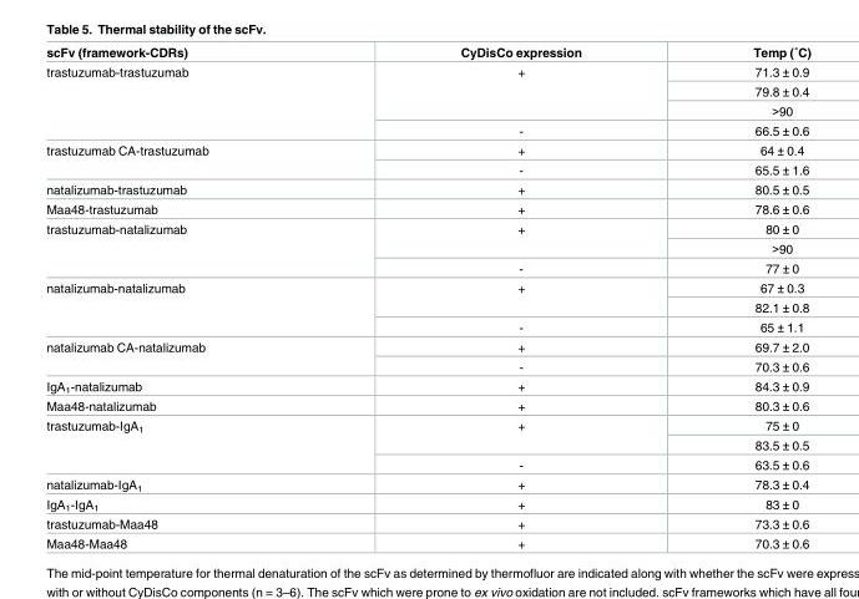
<table><thead><tr><td>scFv (framework-CDRs)</td><td>CyDisCo expression</td><td>Temp (˚C)</td></tr></thead><tbody><tr><td rowspan="4">trastuzumab-trastuzumab</td><td rowspan="3">+</td><td>71.3 ± 0.9</td></tr><tr><td>79.8 ± 0.4</td></tr><tr><td>&gt;90</td></tr><tr><td>-</td><td>66.5 ± 0.6</td></tr><tr><td rowspan="2">trastuzumab CA-trastuzumab</td><td>+</td><td>64 ± 0.4</td></tr><tr><td>-</td><td>65.5 ± 1.6</td></tr><tr><td>natalizumab-trastuzumab</td><td>+</td><td>80.5 ± 0.5</td></tr><tr><td>Maa48-trastuzumab</td><td>+</td><td>78.6 ± 0.6</td></tr><tr><td rowspan="3">trastuzumab-natalizumab</td><td rowspan="2">+</td><td>80 ± 0</td></tr><tr><td>&gt;90</td></tr><tr><td>-</td><td>77 ± 0</td></tr><tr><td rowspan="3">natalizumab-natalizumab</td><td rowspan="2">+</td><td>67 ± 0.3</td></tr><tr><td>82.1 ± 0.8</td></tr><tr><td>-</td><td>65 ± 1.1</td></tr><tr><td rowspan="2">natalizumab CA-natalizumab</td><td>+</td><td>69.7 ± 2.0</td></tr><tr><td>-</td><td>70.3 ± 0.6</td></tr><tr><td>IgA<sub>1</sub>-natalizumab</td><td>+</td><td>84.3 ± 0.9</td></tr><tr><td>Maa48-natalizumab</td><td>+</td><td>80.3 ± 0.6</td></tr><tr><td rowspan="3">trastuzumab-IgA<sub>1</sub></td><td rowspan="2">+</td><td>75 ± 0</td></tr><tr><td>83.5 ± 0.5</td></tr><tr><td>-</td><td>63.5 ± 0.6</td></tr><tr><td>natalizumab-IgA<sub>1</sub></td><td>+</td><td>78.3 ± 0.4</td></tr><tr><td>IgA<sub>1</sub>-IgA<sub>1</sub></td><td>+</td><td>83 ± 0</td></tr><tr><td>trastuzumab-Maa48</td><td>+</td><td>73.3 ± 0.6</td></tr><tr><td>Maa48-Maa48</td><td>+</td><td>70.3 ± 0.6</td></tr></tbody></table>